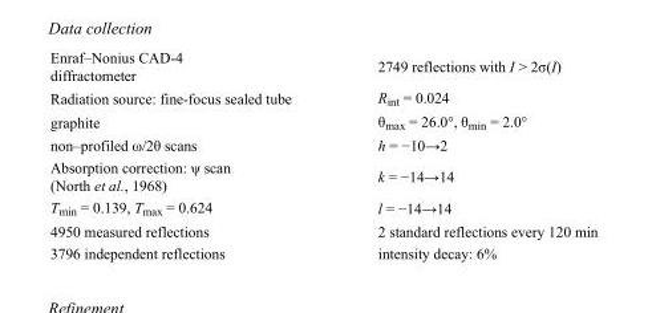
<table><tbody><tr><td>Enraf–Nonius CAD-4 diffractometer</td><td>2749 reflections with I &gt; 2σ(I)</td></tr><tr><td>Radiation source: fine-focus sealed tube</td><td>R<sub>int</sub> = 0.024</td></tr><tr><td>graphite</td><td>θ<sub>max</sub> = 26.0°, θ<sub>min</sub> = 2.0°</td></tr><tr><td>non–profiled ω/2θ scans</td><td>h = −10→2</td></tr><tr><td>Absorption correction: ψ scan (North et al., 1968)</td><td>k = −14→14</td></tr><tr><td>T<sub>min</sub> = 0.139, T<sub>max</sub> = 0.624</td><td>l = −14→14</td></tr><tr><td>4950 measured reflections</td><td>2 standard reflections every 120 min</td></tr><tr><td>3796 independent reflections</td><td>intensity decay: 6%</td></tr></tbody></table>